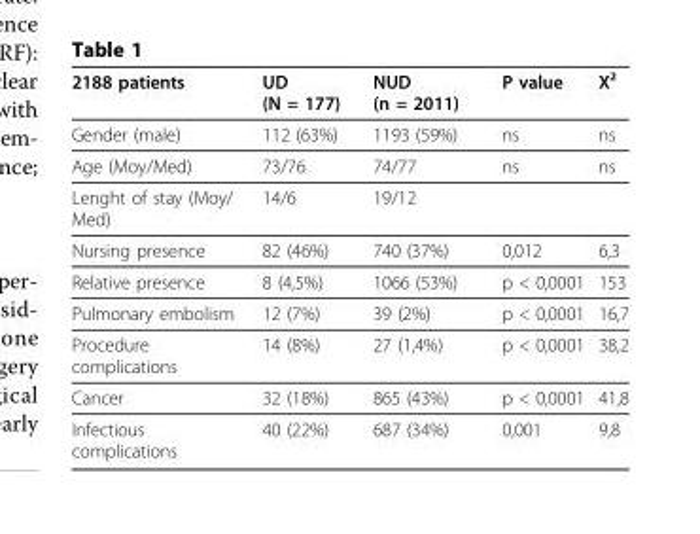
<table><thead><tr><td>2188 patients</td><td>UD (N = 177)</td><td>NUD (n = 2011)</td><td>P value</td><td>X²</td></tr></thead><tbody><tr><td>Gender (male)</td><td>112 (63%)</td><td>1193 (59%)</td><td>ns</td><td>ns</td></tr><tr><td>Age (Moy/Med)</td><td>73/76</td><td>74/77</td><td>ns</td><td>ns</td></tr><tr><td>Lenght of stay (Moy/ Med)</td><td>14/6</td><td>19/12</td><td></td><td></td></tr><tr><td>Nursing presence</td><td>82 (46%)</td><td>740 (37%)</td><td>0,012</td><td>6,3</td></tr><tr><td>Relative presence</td><td>8 (4,5%)</td><td>1066 (53%)</td><td>p &lt; 0,0001</td><td>153</td></tr><tr><td>Pulmonary embolism</td><td>12 (7%)</td><td>39 (2%)</td><td>p &lt; 0,0001</td><td>16,7</td></tr><tr><td>Procedure complications</td><td>14 (8%)</td><td>27 (1,4%)</td><td>p &lt; 0,0001</td><td>38,2</td></tr><tr><td>Cancer</td><td>32 (18%)</td><td>865 (43%)</td><td>p &lt; 0,0001</td><td>41,8</td></tr><tr><td>Infectious complications</td><td>40 (22%)</td><td>687 (34%)</td><td>0,001</td><td>9,8</td></tr></tbody></table>